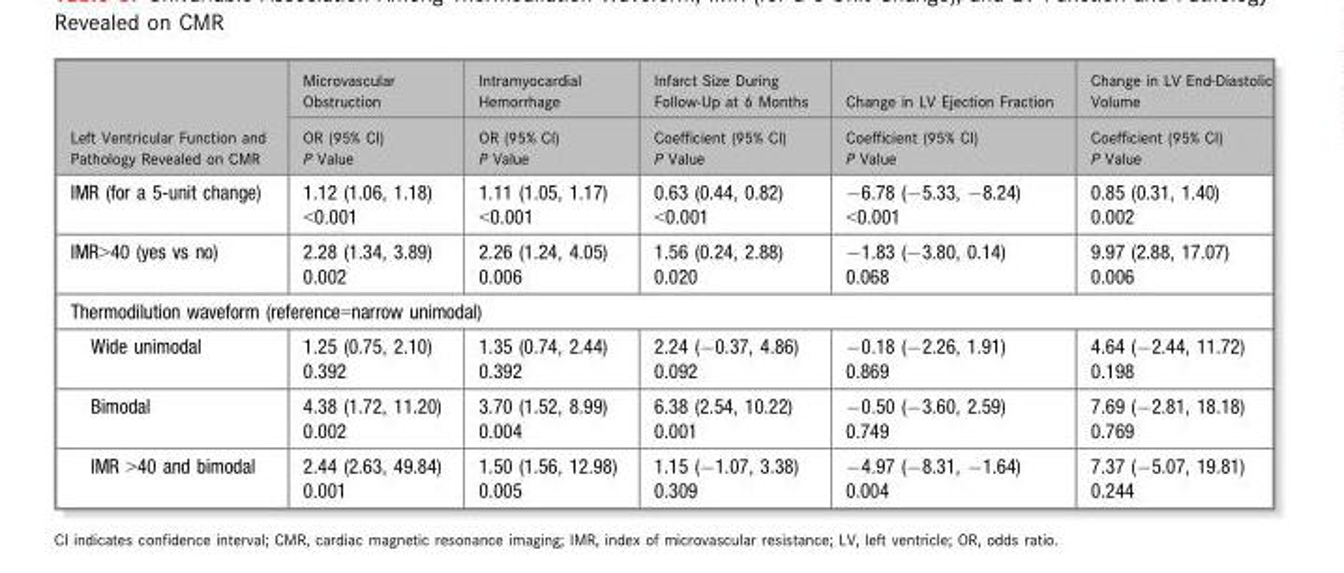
<table><thead><tr><td rowspan="2">Left Ventricular Function and Pathology Revealed on CMR</td><td rowspan="2">Microvascular Obstruction OR (95% CI) P Value</td><td rowspan="2">Intramyocardial Hemorrhage OR (95% CI) P Value</td><td rowspan="2">Infarct Size During Follow-Up at 6 Months Coefficient (95% CI) P Value</td><td rowspan="2">Change in LV Ejection Fraction Coefficient (95% CI) P Value</td><td rowspan="2">Change in LV End-Diastolic Volume Coefficient (95% CI) P Value</td></tr><tr></tr></thead><tbody><tr><td>IMR (for a 5-unit change)</td><td>1.12 (1.06, 1.18) &lt;0.001</td><td>1.11 (1.05, 1.17) &lt;0.001</td><td>0.63 (0.44, 0.82) &lt;0.001</td><td>−6.78 (−5.33, −8.24) &lt;0.001</td><td>0.85 (0.31, 1.40) 0.002</td></tr><tr><td>IMR&gt;40 (yes vs no)</td><td>2.28 (1.34, 3.89) 0.002</td><td>2.26 (1.24, 4.05) 0.006</td><td>1.56 (0.24, 2.88) 0.020</td><td>−1.83 (−3.80, 0.14) 0.068</td><td>9.97 (2.88, 17.07) 0.006</td></tr><tr><td colspan="6">Thermodilution waveform (reference=narrow unimodal)</td></tr><tr><td>Wide unimodal</td><td>1.25 (0.75, 2.10) 0.392</td><td>1.35 (0.74, 2.44) 0.392</td><td>2.24 (−0.37, 4.86) 0.092</td><td>−0.18 (−2.26, 1.91) 0.869</td><td>4.64 (−2.44, 11.72) 0.198</td></tr><tr><td>Bimodal</td><td>4.38 (1.72, 11.20) 0.002</td><td>3.70 (1.52, 8.99) 0.004</td><td>6.38 (2.54, 10.22) 0.001</td><td>−0.50 (−3.60, 2.59) 0.749</td><td>7.69 (−2.81, 18.18) 0.769</td></tr><tr><td>IMR &gt;40 and bimodal</td><td>2.44 (2.63, 49.84) 0.001</td><td>1.50 (1.56, 12.98) 0.005</td><td>1.15 (−1.07, 3.38) 0.309</td><td>−4.97 (−8.31, −1.64) 0.004</td><td>7.37 (−5.07, 19.81) 0.244</td></tr></tbody></table>